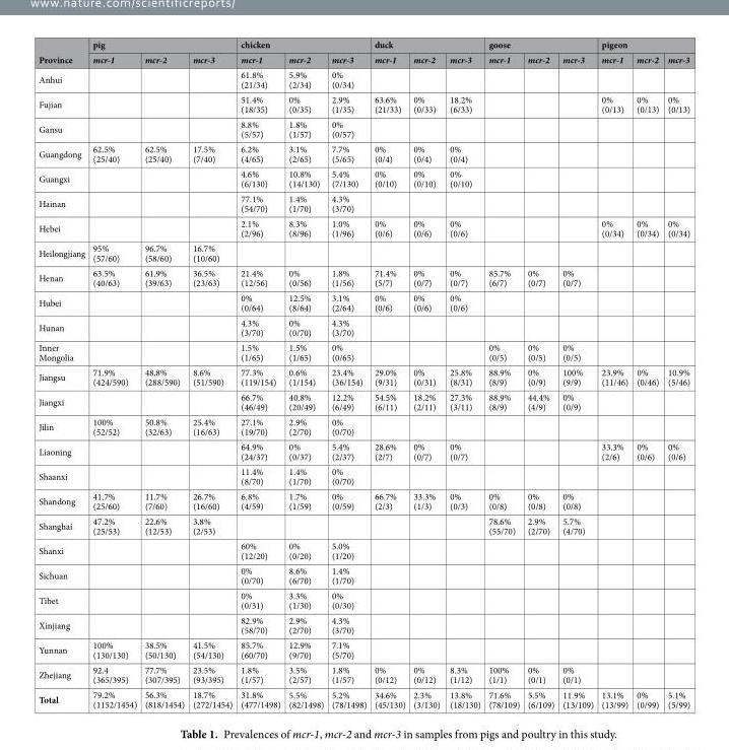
<table><thead><tr><td rowspan="2">Province</td><td colspan="3">pig</td><td colspan="3">chicken</td><td colspan="3">duck</td><td colspan="3">goose</td><td colspan="3">pigeon</td></tr><tr><td>mcr-1</td><td>mcr-2</td><td>mcr-3</td><td>mcr-1</td><td>mcr-2</td><td>mcr-3</td><td>mcr-1</td><td>mcr-2</td><td>mcr-3</td><td>mcr-1</td><td>mcr-2</td><td>mcr-3</td><td>mcr-1</td><td>mcr-2</td><td>mcr-3</td></tr></thead><tbody><tr><td>Anhui</td><td></td><td></td><td></td><td>61.8% (21/34)</td><td>5.9% (2/34)</td><td>0% (0/34)</td><td></td><td></td><td></td><td></td><td></td><td></td><td></td><td></td><td></td></tr><tr><td>Fujian</td><td></td><td></td><td></td><td>51.4% (18/35)</td><td>0% (0/35)</td><td>2.9% (1/35)</td><td>63.6% (21/33)</td><td>0% (0/33)</td><td>18.2% (6/33)</td><td></td><td></td><td></td><td>0% (0/13)</td><td>0% (0/13)</td><td>0% (0/13)</td></tr><tr><td>Gansu</td><td></td><td></td><td></td><td>8.8% (5/57)</td><td>1.8% (1/57)</td><td>0% (0/57)</td><td></td><td></td><td></td><td></td><td></td><td></td><td></td><td></td><td></td></tr><tr><td>Guangdong</td><td>62.5% (25/40)</td><td>62.5% (25/40)</td><td>17.5% (7/40)</td><td>6.2% (4/65)</td><td>3.1% (2/65)</td><td>7.7% (5/65)</td><td>0% (0/4)</td><td>0% (0/4)</td><td>0% (0/4)</td><td></td><td></td><td></td><td></td><td></td><td></td></tr><tr><td>Guangxi</td><td></td><td></td><td></td><td>4.6% (6/130)</td><td>10.8% (14/130)</td><td>5.4% (7/130)</td><td>0% (0/10)</td><td>0% (0/10)</td><td>0% (0/10)</td><td></td><td></td><td></td><td></td><td></td><td></td></tr><tr><td>Hainan</td><td></td><td></td><td></td><td>77.1% (54/70)</td><td>1.4% (1/70)</td><td>4.3% (3/70)</td><td></td><td></td><td></td><td></td><td></td><td></td><td></td><td></td><td></td></tr><tr><td>Hebei</td><td></td><td></td><td></td><td>2.1% (2/96)</td><td>8.3% (8/96)</td><td>1.0% (1/96)</td><td>0% (0/6)</td><td>0% (0/6)</td><td>0% (0/6)</td><td></td><td></td><td></td><td>0% (0/34)</td><td>0% (0/34)</td><td>0% (0/34)</td></tr><tr><td>Heilongjiang</td><td>95% (57/60)</td><td>96.7% (58/60)</td><td>16.7% (10/60)</td><td></td><td></td><td></td><td></td><td></td><td></td><td></td><td></td><td></td><td></td><td></td><td></td></tr><tr><td>Henan</td><td>63.5% (40/63)</td><td>61.9% (39/63)</td><td>36.5% (23/63)</td><td>21.4% (12/56)</td><td>0% (0/56)</td><td>1.8% (1/56)</td><td>71.4% (5/7)</td><td>0% (0/7)</td><td>0% (0/7)</td><td>85.7% (6/7)</td><td>0% (0/7)</td><td>0% (0/7)</td><td></td><td></td><td></td></tr><tr><td>Hubei</td><td></td><td></td><td></td><td>0% (0/64)</td><td>12.5% (8/64)</td><td>3.1% (2/64)</td><td>0% (0/6)</td><td>0% (0/6)</td><td>0% (0/6)</td><td></td><td></td><td></td><td></td><td></td><td></td></tr><tr><td>Hunan</td><td></td><td></td><td></td><td>4.3% (3/70)</td><td>0% (0/70)</td><td>4.3% (3/70)</td><td></td><td></td><td></td><td></td><td></td><td></td><td></td><td></td><td></td></tr><tr><td>Inner Mongolia</td><td></td><td></td><td></td><td>1.5% (1/65)</td><td>1.5% (1/65)</td><td>0% (0/65)</td><td></td><td></td><td></td><td>0% (0/5)</td><td>0% (0/5)</td><td>0% (0/5)</td><td></td><td></td><td></td></tr><tr><td>Jiangsu</td><td>71.9% (424/590)</td><td>48.8% (288/590)</td><td>8.6% (51/590)</td><td>77.3% (119/154)</td><td>0.6% (1/154)</td><td>23.4% (36/154)</td><td>29.0% (9/31)</td><td>0% (0/31)</td><td>25.8% (8/31)</td><td>88.9% (8/9)</td><td>0% (0/9)</td><td>100% (9/9)</td><td>23.9% (11/46)</td><td>0% (0/46)</td><td>10.9% (5/46)</td></tr><tr><td>Jiangxi</td><td></td><td></td><td></td><td>66.7% (46/49)</td><td>40.8% (20/49)</td><td>12.2% (6/49)</td><td>54.5% (6/11)</td><td>18.2% (2/11)</td><td>27.3% (3/11)</td><td>88.9% (8/9)</td><td>44.4% (4/9)</td><td>0% (0/9)</td><td></td><td></td><td></td></tr><tr><td>Jilin</td><td>100% (52/52)</td><td>50.8% (32/63)</td><td>25.4% (16/63)</td><td>27.1% (19/70)</td><td>2.9% (2/70)</td><td>0% (0/70)</td><td></td><td></td><td></td><td></td><td></td><td></td><td></td><td></td><td></td></tr><tr><td>Liaoning</td><td></td><td></td><td></td><td>64.9% (24/37)</td><td>0% (0/37)</td><td>5.4% (2/37)</td><td>28.6% (2/7)</td><td>0% (0/7)</td><td>0% (0/7)</td><td></td><td></td><td></td><td>33.3% (2/6)</td><td>0% (0/6)</td><td>0% (0/6)</td></tr><tr><td>Shaanxi</td><td></td><td></td><td></td><td>11.4% (8/70)</td><td>1.4% (1/70)</td><td>0% (0/70)</td><td></td><td></td><td></td><td></td><td></td><td></td><td></td><td></td><td></td></tr><tr><td>Shandong</td><td>41.7% (25/60)</td><td>11.7% (7/60)</td><td>26.7% (16/60)</td><td>6.8% (4/59)</td><td>1.7% (1/59)</td><td>0% (0/59)</td><td>66.7% (2/3)</td><td>33.3% (1/3)</td><td>0% (0/3)</td><td>0% (0/8)</td><td>0% (0/8)</td><td>0% (0/8)</td><td></td><td></td><td></td></tr><tr><td>Shanghai</td><td>47.2% (25/53)</td><td>22.6% (12/53)</td><td>3.8% (2/53)</td><td></td><td></td><td></td><td></td><td></td><td></td><td>78.6% (55/70)</td><td>2.9% (2/70)</td><td>5.7% (4/70)</td><td></td><td></td><td></td></tr><tr><td>Shanxi</td><td></td><td></td><td></td><td>60% (12/20)</td><td>0% (0/20)</td><td>5.0% (1/20)</td><td></td><td></td><td></td><td></td><td></td><td></td><td></td><td></td><td></td></tr><tr><td>Sichuan</td><td></td><td></td><td></td><td>0% (0/70)</td><td>8.6% (6/70)</td><td>1.4% (1/70)</td><td></td><td></td><td></td><td></td><td></td><td></td><td></td><td></td><td></td></tr><tr><td>Tibet</td><td></td><td></td><td></td><td>0% (0/31)</td><td>3.3% (1/30)</td><td>0% (0/30)</td><td></td><td></td><td></td><td></td><td></td><td></td><td></td><td></td><td></td></tr><tr><td>Xinjiang</td><td></td><td></td><td></td><td>82.9% (58/70)</td><td>2.9% (2/70)</td><td>4.3% (3/70)</td><td></td><td></td><td></td><td></td><td></td><td></td><td></td><td></td><td></td></tr><tr><td>Yunnan</td><td>100% (130/130)</td><td>38.5% (50/130)</td><td>41.5% (54/130)</td><td>85.7% (60/70)</td><td>12.9% (9/70)</td><td>7.1% (5/70)</td><td></td><td></td><td></td><td></td><td></td><td></td><td></td><td></td><td></td></tr><tr><td>Zhejiang</td><td>92.4 (365/395)</td><td>77.7% (307/395)</td><td>23.5% (93/395)</td><td>1.8% (1/57)</td><td>3.5% (2/57)</td><td>1.8% (1/57)</td><td>0% (0/12)</td><td>0% (0/12)</td><td>8.3% (1/12)</td><td>100% (1/1)</td><td>0% (0/1)</td><td>0% (0/1)</td><td></td><td></td><td></td></tr><tr><td>Total</td><td>79.2% (1152/1454)</td><td>56.3% (818/1454)</td><td>18.7% (272/1454)</td><td>31.8% (477/1498)</td><td>5.5% (82/1498)</td><td>5.2% (78/1498)</td><td>34.6% (45/130)</td><td>2.3% (3/130)</td><td>13.8% (18/130)</td><td>71.6% (78/109)</td><td>5.5% (6/109)</td><td>11.9% (13/109)</td><td>13.1% (13/99)</td><td>0% (0/99)</td><td>5.1% (5/99)</td></tr></tbody></table>